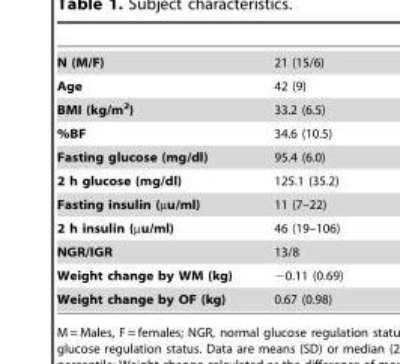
<table><tbody><tr><td>N (M/F)</td><td>21 (15/6)</td></tr><tr><td>Age</td><td>42 (9)</td></tr><tr><td>BMI (kg/m<sup>2</sup>)</td><td>33.2 (6.5)</td></tr><tr><td>%BF</td><td>34.6 (10.5)</td></tr><tr><td>Fasting glucose (mg/dl)</td><td>95.4 (6.0)</td></tr><tr><td>2 h glucose (mg/dl)</td><td>125.1 (35.2)</td></tr><tr><td>Fasting insulin (µu/ml)</td><td>11 (7–22)</td></tr><tr><td>2 h insulin (µu/ml)</td><td>46 (19–106)</td></tr><tr><td>NGR/IGR</td><td>13/8</td></tr><tr><td>Weight change by WM (kg)</td><td>−0.11 (0.69)</td></tr><tr><td>Weight change by OF (kg)</td><td>0.67 (0.98)</td></tr></tbody></table>